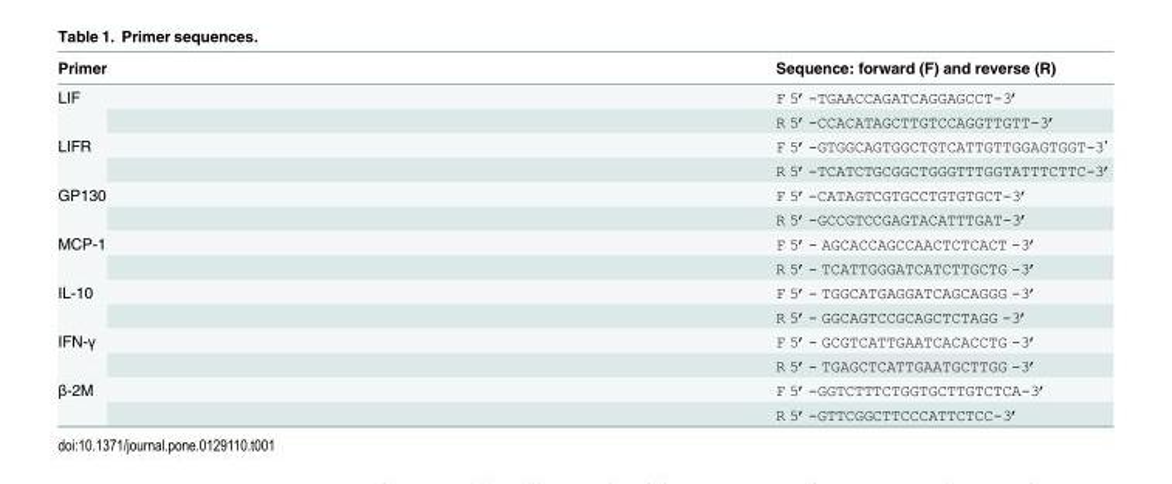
<table><thead><tr><td>Primer</td><td>Sequence: forward (F) and reverse (R)</td></tr></thead><tbody><tr><td rowspan="2">LIF</td><td>F 5’-TGAACCAGATCAGGAGCCT-3’</td></tr><tr><td>R 5’-CCACATAGCTTGTCCAGGTTGTT-3’</td></tr><tr><td rowspan="2">LIFR</td><td>F 5’-GTGGCAGTGGCTGTCATTGTTGGAGTGGT-3’</td></tr><tr><td>R 5’-TCATCTGCGGCTGGGTTTGGTATTTCTTC-3’</td></tr><tr><td rowspan="2">GP130</td><td>F 5’-CATAGTCGTGCCTGTGTGCT-3’</td></tr><tr><td>R 5’-GCCGTCCGAGTACATTTGAT-3’</td></tr><tr><td rowspan="2">MCP-1</td><td>F 5’- AGCACCAGCCAACTCTCACT -3’</td></tr><tr><td>R 5’- TCATTGGGATCATCTTGCTG -3’</td></tr><tr><td rowspan="2">IL-10</td><td>F 5’- TGGCATGAGGATCAGCAGGG -3’</td></tr><tr><td>R 5’- GGCAGTCCGCAGCTCTAGG -3’</td></tr><tr><td rowspan="2">IFN-γ</td><td>F 5’- GCGTCATTGAATCACACCTG -3’</td></tr><tr><td>R 5’- TGAGCTCATTGAATGCTTGG -3’</td></tr><tr><td rowspan="2">β-2M</td><td>F 5’-GGTCTTTCTGGTGCTTGTCTCA-3’</td></tr><tr><td>R 5’-GTTCGGCTTCCCATTCTCC-3’</td></tr></tbody></table>